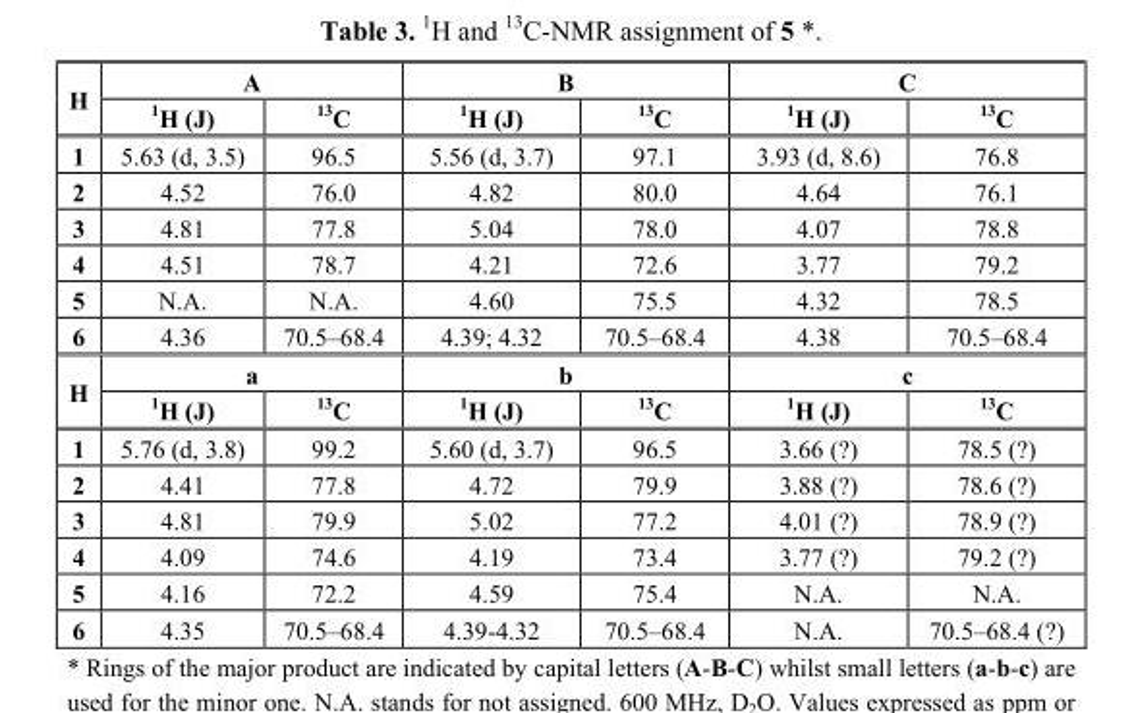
<table><thead><tr><td rowspan="2">H</td><td colspan="2">A</td><td colspan="2">B</td><td colspan="2">C</td></tr><tr><td><sup>1</sup>H (J)</td><td><sup>13</sup>C</td><td><sup>1</sup>H (J)</td><td><sup>13</sup>C</td><td><sup>1</sup>H (J)</td><td><sup>13</sup>C</td></tr></thead><tbody><tr><td>1</td><td>5.63 (d, 3.5)</td><td>96.5</td><td>5.56 (d, 3.7)</td><td>97.1</td><td>3.93 (d, 8.6)</td><td>76.8</td></tr><tr><td>2</td><td>4.52</td><td>76.0</td><td>4.82</td><td>80.0</td><td>4.64</td><td>76.1</td></tr><tr><td>3</td><td>4.81</td><td>77.8</td><td>5.04</td><td>78.0</td><td>4.07</td><td>78.8</td></tr><tr><td>4</td><td>4.51</td><td>78.7</td><td>4.21</td><td>72.6</td><td>3.77</td><td>79.2</td></tr><tr><td>5</td><td>N.A.</td><td>N.A.</td><td>4.60</td><td>75.5</td><td>4.32</td><td>78.5</td></tr><tr><td>6</td><td>4.36</td><td>70.5–68.4</td><td>4.39; 4.32</td><td>70.5–68.4</td><td>4.38</td><td>70.5–68.4</td></tr><tr><td rowspan="2">H</td><td colspan="2">a</td><td colspan="2">b</td><td colspan="2">c</td></tr><tr><td><sup>1</sup>H (J)</td><td><sup>13</sup>C</td><td><sup>1</sup>H (J)</td><td><sup>13</sup>C</td><td><sup>1</sup>H (J)</td><td><sup>13</sup>C</td></tr><tr><td>1</td><td>5.76 (d, 3.8)</td><td>99.2</td><td>5.60 (d, 3.7)</td><td>96.5</td><td>3.66 (?)</td><td>78.5 (?)</td></tr><tr><td>2</td><td>4.41</td><td>77.8</td><td>4.72</td><td>79.9</td><td>3.88 (?)</td><td>78.6 (?)</td></tr><tr><td>3</td><td>4.81</td><td>79.9</td><td>5.02</td><td>77.2</td><td>4.01 (?)</td><td>78.9 (?)</td></tr><tr><td>4</td><td>4.09</td><td>74.6</td><td>4.19</td><td>73.4</td><td>3.77 (?)</td><td>79.2 (?)</td></tr><tr><td>5</td><td>4.16</td><td>72.2</td><td>4.59</td><td>75.4</td><td>N.A.</td><td>N.A.</td></tr><tr><td>6</td><td>4.35</td><td>70.5–68.4</td><td>4.39-4.32</td><td>70.5–68.4</td><td>N.A.</td><td>70.5–68.4 (?)</td></tr></tbody></table>